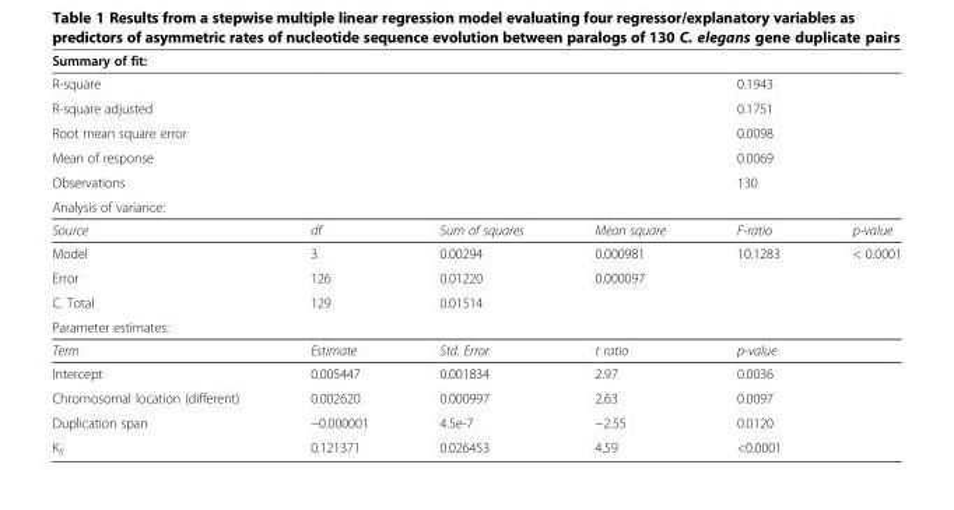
<table><thead><tr><td>Summary of fit:</td><td></td><td></td><td></td><td></td><td></td></tr></thead><tbody><tr><td>R-square</td><td></td><td></td><td></td><td>0.1943</td><td></td></tr><tr><td>R-square adjusted</td><td></td><td></td><td></td><td>0.1751</td><td></td></tr><tr><td>Root mean square error</td><td></td><td></td><td></td><td>0.0098</td><td></td></tr><tr><td>Mean of response</td><td></td><td></td><td></td><td>0.0069</td><td></td></tr><tr><td>Observations</td><td></td><td></td><td></td><td>130</td><td></td></tr><tr><td colspan="6">Analysis of variance:</td></tr><tr><td>Source</td><td>df</td><td>Sum of squares</td><td>Mean square</td><td>F-ratio</td><td>p-value</td></tr><tr><td>Model</td><td>3</td><td>0.00294</td><td>0.000981</td><td>10.1283</td><td>&lt; 0.0001</td></tr><tr><td>Error</td><td>126</td><td>0.01220</td><td>0.000097</td><td></td><td></td></tr><tr><td>C. Total</td><td>129</td><td>0.01514</td><td></td><td></td><td></td></tr><tr><td colspan="6">Parameter estimates:</td></tr><tr><td>Term</td><td>Estimate</td><td>Std. Error</td><td>t ratio</td><td>p-value</td><td></td></tr><tr><td>Intercept</td><td>0.005447</td><td>0.001834</td><td>2.97</td><td>0.0036</td><td></td></tr><tr><td>Chromosomal location (different)</td><td>0.002620</td><td>0.000997</td><td>2.63</td><td>0.0097</td><td></td></tr><tr><td>Duplication span</td><td>−0.000001</td><td>4.5e-7</td><td>−2.55</td><td>0.0120</td><td></td></tr><tr><td>K<sub>S</sub></td><td>0.121371</td><td>0.026453</td><td>4.59</td><td>&lt;0.0001</td><td></td></tr></tbody></table>